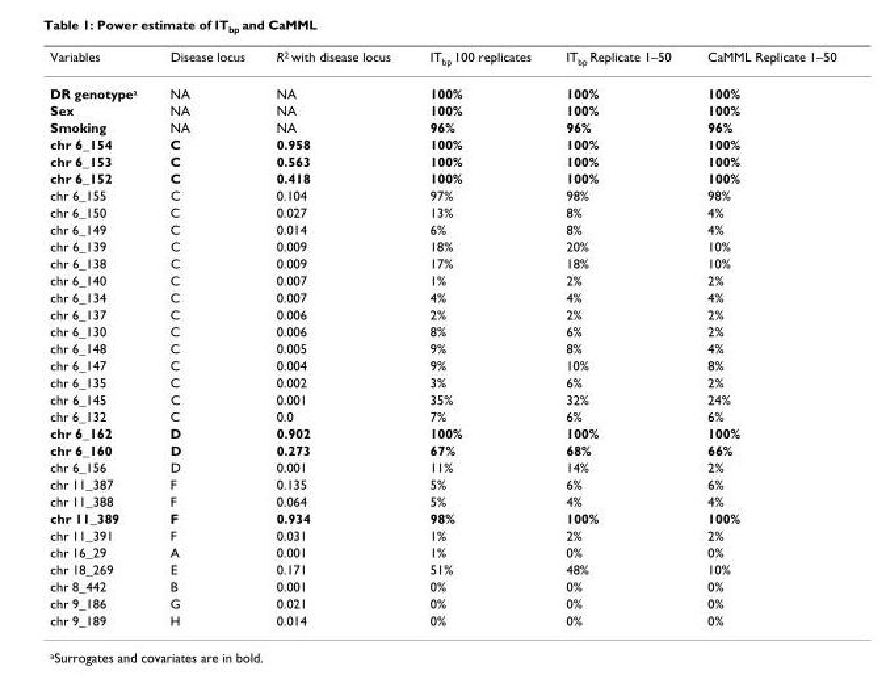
<table><thead><tr><td>Variables</td><td>Disease locus</td><td>R<sup>2</sup> with disease locus</td><td>IT<sub>bp</sub> 100 replicates</td><td>IT<sub>bp</sub> Replicate 1–50</td><td>CaMML Replicate 1–50</td></tr></thead><tbody><tr><td>DR genotype<sup>a</sup></td><td>NA</td><td>NA</td><td>100%</td><td>100%</td><td>100%</td></tr><tr><td>Sex</td><td>NA</td><td>NA</td><td>100%</td><td>100%</td><td>100%</td></tr><tr><td>Smoking</td><td>NA</td><td>NA</td><td>96%</td><td>96%</td><td>96%</td></tr><tr><td>chr 6_154</td><td>C</td><td>0.958</td><td>100%</td><td>100%</td><td>100%</td></tr><tr><td>chr 6_153</td><td>C</td><td>0.563</td><td>100%</td><td>100%</td><td>100%</td></tr><tr><td>chr 6_152</td><td>C</td><td>0.418</td><td>100%</td><td>100%</td><td>100%</td></tr><tr><td>chr 6_155</td><td>C</td><td>0.104</td><td>97%</td><td>98%</td><td>98%</td></tr><tr><td>chr 6_150</td><td>C</td><td>0.027</td><td>13%</td><td>8%</td><td>4%</td></tr><tr><td>chr 6_149</td><td>C</td><td>0.014</td><td>6%</td><td>8%</td><td>4%</td></tr><tr><td>chr 6_139</td><td>C</td><td>0.009</td><td>18%</td><td>20%</td><td>10%</td></tr><tr><td>chr 6_138</td><td>C</td><td>0.009</td><td>17%</td><td>18%</td><td>10%</td></tr><tr><td>chr 6_140</td><td>C</td><td>0.007</td><td>1%</td><td>2%</td><td>2%</td></tr><tr><td>chr 6_134</td><td>C</td><td>0.007</td><td>4%</td><td>4%</td><td>4%</td></tr><tr><td>chr 6_137</td><td>C</td><td>0.006</td><td>2%</td><td>2%</td><td>2%</td></tr><tr><td>chr 6_130</td><td>C</td><td>0.006</td><td>8%</td><td>6%</td><td>2%</td></tr><tr><td>chr 6_148</td><td>C</td><td>0.005</td><td>9%</td><td>8%</td><td>4%</td></tr><tr><td>chr 6_147</td><td>C</td><td>0.004</td><td>9%</td><td>10%</td><td>8%</td></tr><tr><td>chr 6_135</td><td>C</td><td>0.002</td><td>3%</td><td>6%</td><td>2%</td></tr><tr><td>chr 6_145</td><td>C</td><td>0.001</td><td>35%</td><td>32%</td><td>24%</td></tr><tr><td>chr 6_132</td><td>C</td><td>0.0</td><td>7%</td><td>6%</td><td>6%</td></tr><tr><td>chr 6_162</td><td>D</td><td>0.902</td><td>100%</td><td>100%</td><td>100%</td></tr><tr><td>chr 6_160</td><td>D</td><td>0.273</td><td>67%</td><td>68%</td><td>66%</td></tr><tr><td>chr 6_156</td><td>D</td><td>0.001</td><td>11%</td><td>14%</td><td>2%</td></tr><tr><td>chr 11_387</td><td>F</td><td>0.135</td><td>5%</td><td>6%</td><td>6%</td></tr><tr><td>chr 11_388</td><td>F</td><td>0.064</td><td>5%</td><td>4%</td><td>4%</td></tr><tr><td>chr 11_389</td><td>F</td><td>0.934</td><td>98%</td><td>100%</td><td>100%</td></tr><tr><td>chr 11_391</td><td>F</td><td>0.031</td><td>1%</td><td>2%</td><td>2%</td></tr><tr><td>chr 16_29</td><td>A</td><td>0.001</td><td>1%</td><td>0%</td><td>0%</td></tr><tr><td>chr 18_269</td><td>E</td><td>0.171</td><td>51%</td><td>48%</td><td>10%</td></tr><tr><td>chr 8_442</td><td>B</td><td>0.001</td><td>0%</td><td>0%</td><td>0%</td></tr><tr><td>chr 9_186</td><td>G</td><td>0.021</td><td>0%</td><td>0%</td><td>0%</td></tr><tr><td>chr 9_189</td><td>H</td><td>0.014</td><td>0%</td><td>0%</td><td>0%</td></tr></tbody></table>